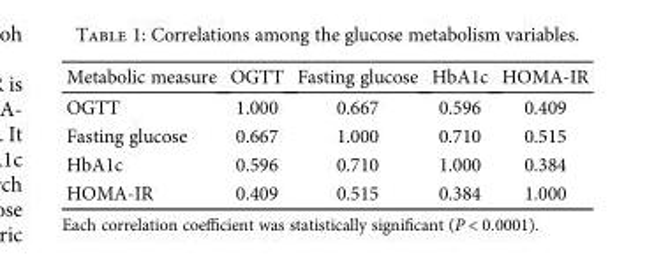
<table><thead><tr><td>Metabolic measure</td><td>OGTT</td><td>Fasting glucose</td><td>HbA1c</td><td>HOMA-IR</td></tr></thead><tbody><tr><td>OGTT</td><td>1.000</td><td>0.667</td><td>0.596</td><td>0.409</td></tr><tr><td>Fasting glucose</td><td>0.667</td><td>1.000</td><td>0.710</td><td>0.515</td></tr><tr><td>HbA1c</td><td>0.596</td><td>0.710</td><td>1.000</td><td>0.384</td></tr><tr><td>HOMA-IR</td><td>0.409</td><td>0.515</td><td>0.384</td><td>1.000</td></tr></tbody></table>